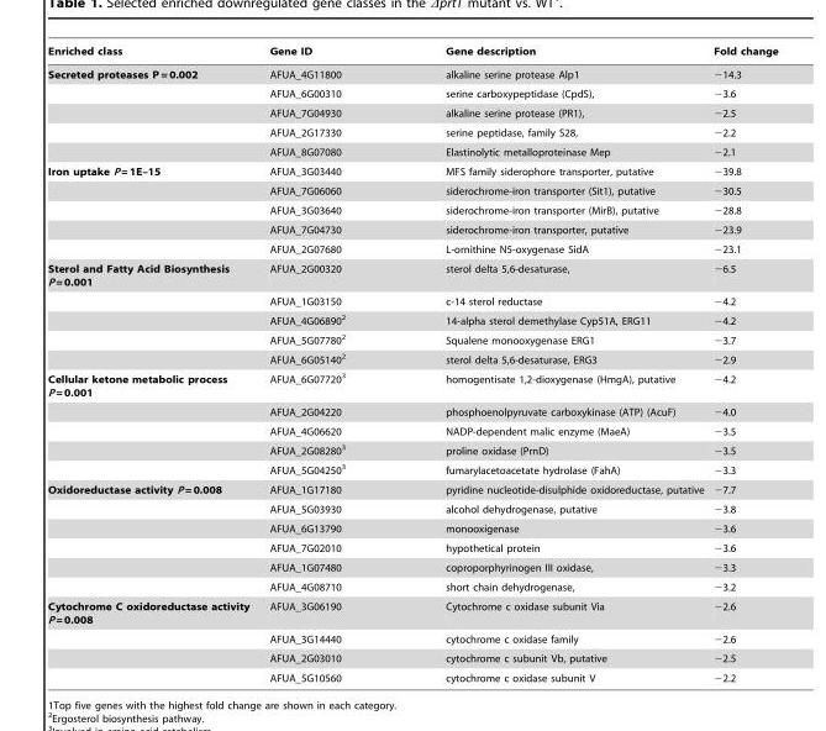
<table><thead><tr><td>Enriched class</td><td>Gene ID</td><td>Gene description</td><td>Fold change</td></tr></thead><tbody><tr><td rowspan="5">Secreted proteases P = 0.002</td><td>AFUA_4G11800</td><td>alkaline serine protease Alp1</td><td>−14.3</td></tr><tr><td>AFUA_6G00310</td><td>serine carboxypeptidase (CpdS),</td><td>−3.6</td></tr><tr><td>AFUA_7G04930</td><td>alkaline serine protease (PR1),</td><td>−2.5</td></tr><tr><td>AFUA_2G17330</td><td>serine peptidase, family S28,</td><td>−2.2</td></tr><tr><td>AFUA_8G07080</td><td>Elastinolytic metalloproteinase Mep</td><td>−2.1</td></tr><tr><td rowspan="5">Iron uptake P = 1E–15</td><td>AFUA_3G03440</td><td>MFS family siderophore transporter, putative</td><td>−39.8</td></tr><tr><td>AFUA_7G06060</td><td>siderochrome-iron transporter (Sit1), putative</td><td>−30.5</td></tr><tr><td>AFUA_3G03640</td><td>siderochrome-iron transporter (MirB), putative</td><td>−28.8</td></tr><tr><td>AFUA_7G04730</td><td>siderochrome-iron transporter, putative</td><td>−23.9</td></tr><tr><td>AFUA_2G07680</td><td>L-ornithine N5-oxygenase SidA</td><td>−23.1</td></tr><tr><td rowspan="5">Sterol and Fatty Acid Biosynthesis P = 0.001</td><td>AFUA_2G00320</td><td>sterol delta 5,6-desaturase,</td><td>−6.5</td></tr><tr><td>AFUA_1G03150</td><td>c-14 sterol reductase</td><td>−4.2</td></tr><tr><td>AFUA_4G06890<sup>2</sup></td><td>14-alpha sterol demethylase Cyp51A, ERG11</td><td>−4.2</td></tr><tr><td>AFUA_5G07780<sup>2</sup></td><td>Squalene monooxygenase ERG1</td><td>−3.7</td></tr><tr><td>AFUA_6G05140<sup>2</sup></td><td>sterol delta 5,6-desaturase, ERG3</td><td>−2.9</td></tr><tr><td rowspan="5">Cellular ketone metabolic process P = 0.001</td><td>AFUA_6G07720<sup>3</sup></td><td>homogentisate 1,2-dioxygenase (HmgA), putative</td><td>−4.2</td></tr><tr><td>AFUA_2G04220</td><td>phosphoenolpyruvate carboxykinase (ATP) (AcuF)</td><td>−4.0</td></tr><tr><td>AFUA_4G06620</td><td>NADP-dependent malic enzyme (MaeA)</td><td>−3.5</td></tr><tr><td>AFUA_2G08280<sup>3</sup></td><td>proline oxidase (PrnD)</td><td>−3.5</td></tr><tr><td>AFUA_5G04250<sup>3</sup></td><td>fumarylacetoacetate hydrolase (FahA)</td><td>−3.3</td></tr><tr><td rowspan="6">Oxidoreductase activity P = 0.008</td><td>AFUA_1G17180</td><td>pyridine nucleotide-disulphide oxidoreductase, putative</td><td>−7.7</td></tr><tr><td>AFUA_5G03930</td><td>alcohol dehydrogenase, putative</td><td>−3.8</td></tr><tr><td>AFUA_6G13790</td><td>monooxigenase</td><td>−3.6</td></tr><tr><td>AFUA_7G02010</td><td>hypothetical protein</td><td>−3.6</td></tr><tr><td>AFUA_1G07480</td><td>coproporphyrinogen III oxidase,</td><td>−3.3</td></tr><tr><td>AFUA_4G08710</td><td>short chain dehydrogenase,</td><td>−3.2</td></tr><tr><td rowspan="4">Cytochrome C oxidoreductase activity P = 0.008</td><td>AFUA_3G06190</td><td>Cytochrome c oxidase subunit Via</td><td>−2.6</td></tr><tr><td>AFUA_3G14440</td><td>cytochrome c oxidase family</td><td>−2.6</td></tr><tr><td>AFUA_2G03010</td><td>cytochrome c subunit Vb, putative</td><td>−2.5</td></tr><tr><td>AFUA_5G10560</td><td>cytochrome c oxidase subunit V</td><td>−2.2</td></tr></tbody></table>